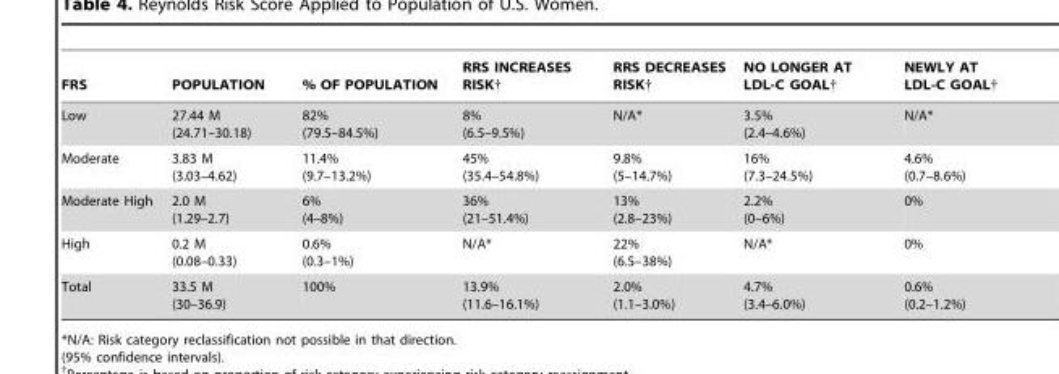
<table><thead><tr><td>FRS</td><td>POPULATION</td><td>% OF POPULATION</td><td>RRS INCREASES RISK†</td><td>RRS DECREASES RISK†</td><td>NO LONGER AT LDL-C GOAL†</td><td>NEWLY AT LDL-C GOAL†</td></tr></thead><tbody><tr><td>Low</td><td>27.44 M (24.71–30.18)</td><td>82% (79.5–84.5%)</td><td>8% (6.5–9.5%)</td><td>N/A*</td><td>3.5% (2.4–4.6%)</td><td>N/A*</td></tr><tr><td>Moderate</td><td>3.83 M (3.03–4.62)</td><td>11.4% (9.7–13.2%)</td><td>45% (35.4–54.8%)</td><td>9.8% (5–14.7%)</td><td>16% (7.3–24.5%)</td><td>4.6% (0.7–8.6%)</td></tr><tr><td>Moderate High</td><td>2.0 M (1.29–2.7)</td><td>6% (4–8%)</td><td>36% (21–51.4%)</td><td>13% (2.8–23%)</td><td>2.2% (0–6%)</td><td>0%</td></tr><tr><td>High</td><td>0.2 M (0.08–0.33)</td><td>0.6% (0.3–1%)</td><td>N/A*</td><td>22% (6.5–38%)</td><td>N/A*</td><td>0%</td></tr><tr><td>Total</td><td>33.5 M (30–36.9)</td><td>100%</td><td>13.9% (11.6–16.1%)</td><td>2.0% (1.1–3.0%)</td><td>4.7% (3.4–6.0%)</td><td>0.6% (0.2–1.2%)</td></tr></tbody></table>